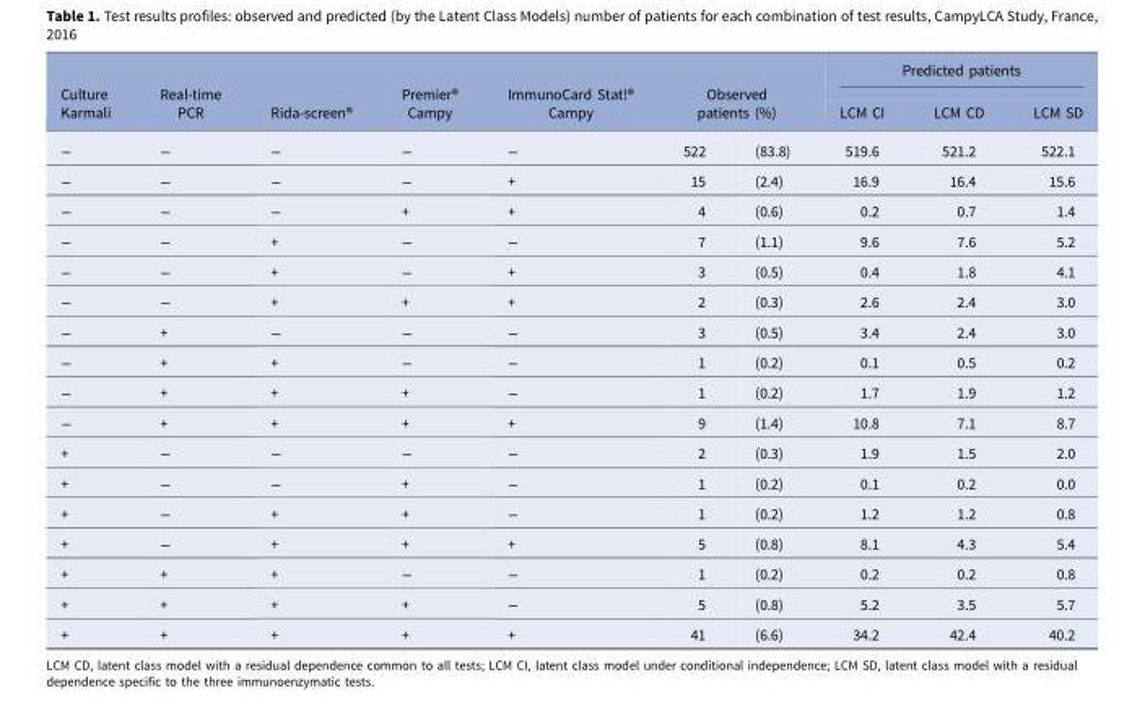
<table><thead><tr><td rowspan="3">Culture Karmali −</td><td rowspan="3">Real-time PCR −</td><td rowspan="3">Rida-screen<sup>®</sup> −</td><td rowspan="3">Premier<sup>®</sup> Campy −</td><td rowspan="3">ImmunoCard Stat!<sup>®</sup> Campy −</td><td rowspan="2" colspan="2">Observed patients (%)</td><td colspan="3">Predicted patients</td></tr><tr><td rowspan="2">LCM CI 519.6</td><td rowspan="2">LCM CD 521.2</td><td rowspan="2">LCM SD 522.1</td></tr><tr><td>522</td><td>(83.8)</td></tr></thead><tbody><tr><td>−</td><td>−</td><td>−</td><td>−</td><td>+</td><td>15</td><td>(2.4)</td><td>16.9</td><td>16.4</td><td>15.6</td></tr><tr><td>−</td><td>−</td><td>−</td><td>+</td><td>+</td><td>4</td><td>(0.6)</td><td>0.2</td><td>0.7</td><td>1.4</td></tr><tr><td>−</td><td>−</td><td>+</td><td>−</td><td>−</td><td>7</td><td>(1.1)</td><td>9.6</td><td>7.6</td><td>5.2</td></tr><tr><td>−</td><td>−</td><td>+</td><td>−</td><td>+</td><td>3</td><td>(0.5)</td><td>0.4</td><td>1.8</td><td>4.1</td></tr><tr><td>−</td><td>−</td><td>+</td><td>+</td><td>+</td><td>2</td><td>(0.3)</td><td>2.6</td><td>2.4</td><td>3.0</td></tr><tr><td>−</td><td>+</td><td>−</td><td>−</td><td>−</td><td>3</td><td>(0.5)</td><td>3.4</td><td>2.4</td><td>3.0</td></tr><tr><td>−</td><td>+</td><td>+</td><td>−</td><td>−</td><td>1</td><td>(0.2)</td><td>0.1</td><td>0.5</td><td>0.2</td></tr><tr><td>−</td><td>+</td><td>+</td><td>+</td><td>−</td><td>1</td><td>(0.2)</td><td>1.7</td><td>1.9</td><td>1.2</td></tr><tr><td>−</td><td>+</td><td>+</td><td>+</td><td>+</td><td>9</td><td>(1.4)</td><td>10.8</td><td>7.1</td><td>8.7</td></tr><tr><td>+</td><td>−</td><td>−</td><td>−</td><td>−</td><td>2</td><td>(0.3)</td><td>1.9</td><td>1.5</td><td>2.0</td></tr><tr><td>+</td><td>−</td><td>−</td><td>+</td><td>−</td><td>1</td><td>(0.2)</td><td>0.1</td><td>0.2</td><td>0.0</td></tr><tr><td>+</td><td>−</td><td>+</td><td>+</td><td>−</td><td>1</td><td>(0.2)</td><td>1.2</td><td>1.2</td><td>0.8</td></tr><tr><td>+</td><td>−</td><td>+</td><td>+</td><td>+</td><td>5</td><td>(0.8)</td><td>8.1</td><td>4.3</td><td>5.4</td></tr><tr><td>+</td><td>+</td><td>+</td><td>−</td><td>−</td><td>1</td><td>(0.2)</td><td>0.2</td><td>0.2</td><td>0.8</td></tr><tr><td>+</td><td>+</td><td>+</td><td>+</td><td>−</td><td>5</td><td>(0.8)</td><td>5.2</td><td>3.5</td><td>5.7</td></tr><tr><td>+</td><td>+</td><td>+</td><td>+</td><td>+</td><td>41</td><td>(6.6)</td><td>34.2</td><td>42.4</td><td>40.2</td></tr></tbody></table>